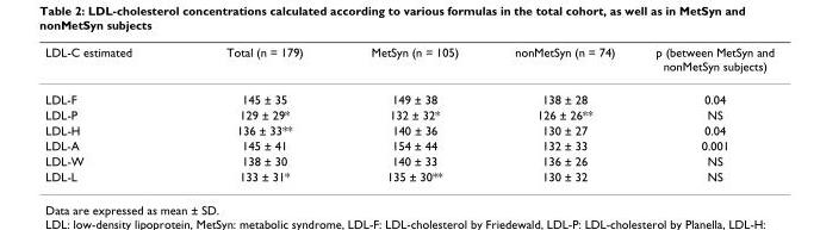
<table><thead><tr><td>LDL-C estimated</td><td>Total (n = 179)</td><td>MetSyn (n = 105)</td><td>nonMetSyn (n = 74)</td><td>p (between MetSyn and nonMetSyn subjects)</td></tr></thead><tbody><tr><td>LDL-F</td><td>145 ± 35</td><td>149 ± 38</td><td>138 ± 28</td><td>0.04</td></tr><tr><td>LDL-P</td><td>129 ± 29*</td><td>132 ± 32*</td><td>126 ± 26**</td><td>NS</td></tr><tr><td>LDL-H</td><td>136 ± 33**</td><td>140 ± 36</td><td>130 ± 27</td><td>0.04</td></tr><tr><td>LDL-A</td><td>145 ± 41</td><td>154 ± 44</td><td>132 ± 33</td><td>0.001</td></tr><tr><td>LDL-W</td><td>138 ± 30</td><td>140 ± 33</td><td>136 ± 26</td><td>NS</td></tr><tr><td>LDL-L</td><td>133 ± 31*</td><td>135 ± 30**</td><td>130 ± 32</td><td>NS</td></tr></tbody></table>